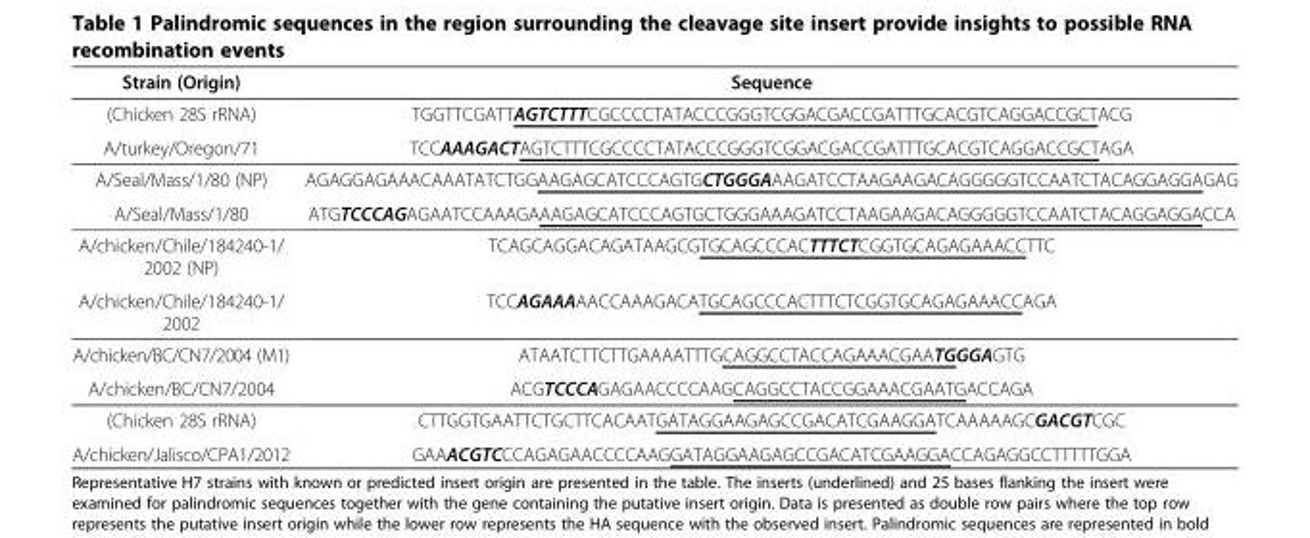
<table><thead><tr><td>Strain (Origin)</td><td>Sequence</td></tr></thead><tbody><tr><td>(Chicken 28S rRNA)</td><td>TGGTTCGATTAGTCTTTCGCCCCTATACCCGGGTCGGACGACCGATTTGCACGTCAGGACCGCTACG</td></tr><tr><td>A/turkey/Oregon/71</td><td>TCCAAAGACTAGTCTTTCGCCCCTATACCCGGGTCGGACGACCGATTTGCACGTCAGGACCGCTAGA</td></tr><tr><td>A/Seal/Mass/1/80 (NP)</td><td>AGAGGAGAAACAAATATCTGGAAGAGCATCCCAGTGCTGGGAAAGATCCTAAGAAGACAGGGGGTCCAATCTACAGGAGGAGAG</td></tr><tr><td>A/Seal/Mass/1/80</td><td>ATGTCCCAGAGAATCCAAAGAAAGAGCATCCCAGTGCTGGGAAAGATCCTAAGAAGACAGGGGGTCCAATCTACAGGAGGACCA</td></tr><tr><td>A/chicken/Chile/184240-1/ 2002 (NP)</td><td>TCAGCAGGACAGATAAGCGTGCAGCCCACTTTCTCGGTGCAGAGAAACCTTC</td></tr><tr><td>A/chicken/Chile/184240-1/ 2002</td><td>TCCAGAAAAACCAAAGACATGCAGCCCACTTTCTCGGTGCAGAGAAACCAGA</td></tr><tr><td>A/chicken/BC/CN7/2004 (M1)</td><td>ATAATCTTCTTGAAAATTTGCAGGCCTACCAGAAACGAATGGGAGTG</td></tr><tr><td>A/chicken/BC/CN7/2004</td><td>ACGTCCCAGAGAACCCCAAGCAGGCCTACCGGAAACGAATGACCAGA</td></tr><tr><td>(Chicken 28S rRNA)</td><td>CTTGGTGAATTCTGCTTCACAATGATAGGAAGAGCCGACATCGAAGGATCAAAAAGCGACGTCGC</td></tr><tr><td>A/chicken/Jalisco/CPA1/2012</td><td>GAAACGTCCCAGAGAACCCCAAGGATAGGAAGAGCCGACATCGAAGGACCAGAGGCCTTTTTGGA</td></tr></tbody></table>